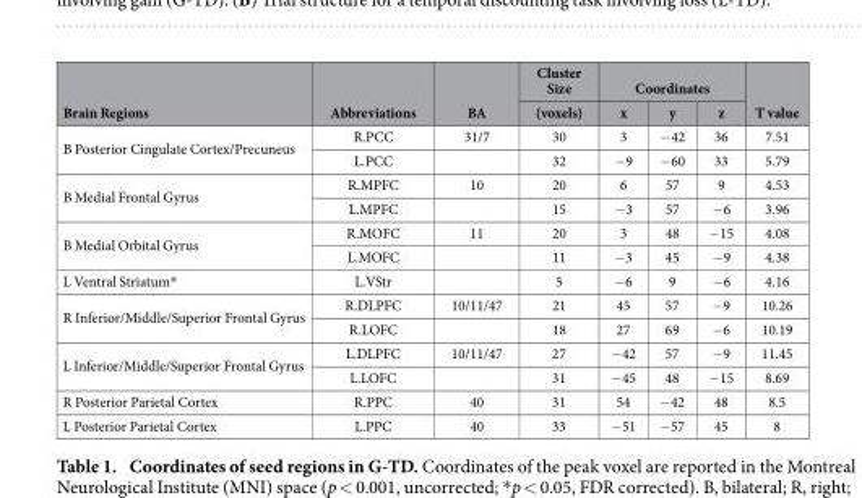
<table><thead><tr><td rowspan="2">Brain Regions</td><td rowspan="2">Abbreviations</td><td rowspan="2">BA</td><td rowspan="2">Cluster Size (voxels)</td><td colspan="3">Coordinates</td><td rowspan="2">T value</td></tr><tr><td>x</td><td>y</td><td>z</td></tr></thead><tbody><tr><td rowspan="2">B Posterior Cingulate Cortex/Precuneus</td><td>R.PCC</td><td>31/7</td><td>30</td><td>3</td><td>− 42</td><td>36</td><td>7.51</td></tr><tr><td>L.PCC</td><td></td><td>32</td><td>− 9</td><td>− 60</td><td>33</td><td>5.79</td></tr><tr><td rowspan="2">B Medial Frontal Gyrus</td><td>R.MPFC</td><td>10</td><td>20</td><td>6</td><td>57</td><td>9</td><td>4.53</td></tr><tr><td>L.MPFC</td><td></td><td>15</td><td>− 3</td><td>57</td><td>− 6</td><td>3.96</td></tr><tr><td rowspan="2">B Medial Orbital Gyrus</td><td>R.MOFC</td><td>11</td><td>20</td><td>3</td><td>48</td><td>− 15</td><td>4.08</td></tr><tr><td>L.MOFC</td><td></td><td>11</td><td>− 3</td><td>45</td><td>− 9</td><td>4.38</td></tr><tr><td>L Ventral Striatum*</td><td>L.VStr</td><td></td><td>5</td><td>− 6</td><td>9</td><td>− 6</td><td>4.16</td></tr><tr><td rowspan="2">R Inferior/Middle/Superior Frontal Gyrus</td><td>R.DLPFC</td><td>10/11/47</td><td>21</td><td>45</td><td>57</td><td>− 9</td><td>10.26</td></tr><tr><td>R.LOFC</td><td></td><td>18</td><td>27</td><td>69</td><td>− 6</td><td>10.19</td></tr><tr><td rowspan="2">L Inferior/Middle/Superior Frontal Gyrus</td><td>L.DLPFC</td><td>10/11/47</td><td>27</td><td>− 42</td><td>57</td><td>− 9</td><td>11.45</td></tr><tr><td>L.LOFC</td><td></td><td>31</td><td>− 45</td><td>48</td><td>− 15</td><td>8.69</td></tr><tr><td>R Posterior Parietal Cortex</td><td>R.PPC</td><td>40</td><td>31</td><td>54</td><td>− 42</td><td>48</td><td>8.5</td></tr><tr><td>L Posterior Parietal Cortex</td><td>L.PPC</td><td>40</td><td>33</td><td>− 51</td><td>− 57</td><td>45</td><td>8</td></tr></tbody></table>